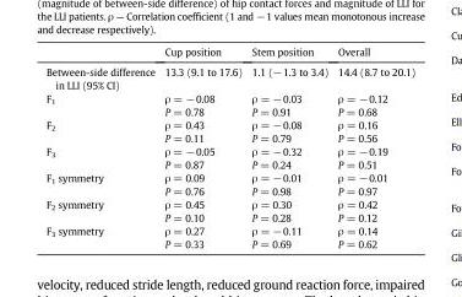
<table><thead><tr><td></td><td>Cup position</td><td>Stem position</td><td>Overall</td></tr></thead><tbody><tr><td>Between-side difference in LLI (95% CI)</td><td>13.3 (9.1 to 17.6)</td><td>1.1 (−1.3 to 3.4)</td><td>14.4 (8.7 to 20.1)</td></tr><tr><td>F<sub>1</sub></td><td>ρ = −0.08 P = 0.78</td><td>ρ = −0.03 P = 0.91</td><td>ρ = −0.12 P = 0.68</td></tr><tr><td>F<sub>2</sub></td><td>ρ = 0.43 P = 0.11</td><td>ρ = −0.08 P = 0.79</td><td>ρ = 0.16 P = 0.56</td></tr><tr><td>F<sub>3</sub></td><td>ρ = −0.05 P = 0.87</td><td>ρ = −0.32 P = 0.24</td><td>ρ = −0.19 P = 0.51</td></tr><tr><td>F<sub>1</sub> symmetry</td><td>ρ = 0.09 P = 0.76</td><td>ρ = −0.01 P = 0.98</td><td>ρ = −0.01 P = 0.97</td></tr><tr><td>F<sub>2</sub> symmetry</td><td>ρ = 0.45 P = 0.10</td><td>ρ = 0.30 P = 0.28</td><td>ρ = 0.42 P = 0.12</td></tr><tr><td>F<sub>3</sub> symmetry</td><td>ρ = 0.27 P = 0.33</td><td>ρ = −0.11 P = 0.69</td><td>ρ = 0.14 P = 0.62</td></tr></tbody></table>